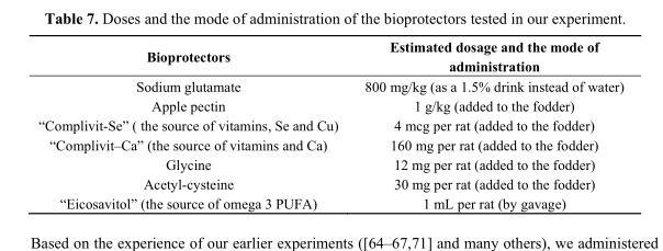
<table><thead><tr><td>Bioprotectors</td><td>Estimated dosage and the mode of administration</td></tr></thead><tbody><tr><td>Sodium glutamate</td><td>800 mg/kg (as a 1.5% drink instead of water)</td></tr><tr><td>Apple pectin</td><td>1 g/kg (added to the fodder)</td></tr><tr><td>“Complivit-Se” ( the source of vitamins, Se and Cu)</td><td>4 mcg per rat (added to the fodder)</td></tr><tr><td>“Complivit–Ca” (the source of vitamins and Ca)</td><td>160 mg per rat (added to the fodder)</td></tr><tr><td>Glycine</td><td>12 mg per rat (added to the fodder)</td></tr><tr><td>Acetyl-cysteine</td><td>30 mg per rat (added to the fodder)</td></tr><tr><td>“Eicosavitol” (the source of omega 3 PUFA)</td><td>1 mL per rat (by gavage)</td></tr></tbody></table>